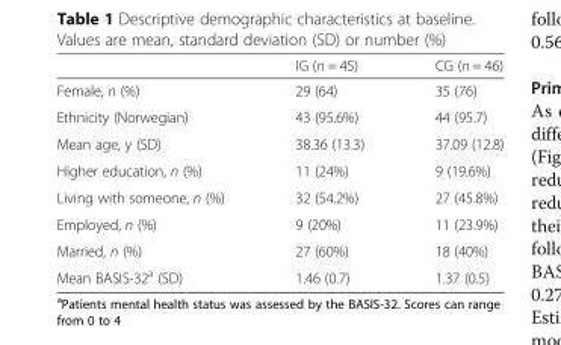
<table><thead><tr><td></td><td>IG (n = 45)</td><td>CG (n = 46)</td></tr></thead><tbody><tr><td>Female, n (%)</td><td>29 (64)</td><td>35 (76)</td></tr><tr><td>Ethnicity (Norwegian)</td><td>43 (95.6%)</td><td>44 (95.7)</td></tr><tr><td>Mean age, y (SD)</td><td>38.36 (13.3)</td><td>37.09 (12.8)</td></tr><tr><td>Higher education, n (%)</td><td>11 (24%)</td><td>9 (19.6%)</td></tr><tr><td>Living with someone, n (%)</td><td>32 (54.2%)</td><td>27 (45.8%)</td></tr><tr><td>Employed, n (%)</td><td>9 (20%)</td><td>11 (23.9%)</td></tr><tr><td>Married, n (%)</td><td>27 (60%)</td><td>18 (40%)</td></tr><tr><td>Mean BASIS-32<sup>a</sup> (SD)</td><td>1.46 (0.7)</td><td>1.37 (0.5)</td></tr></tbody></table>